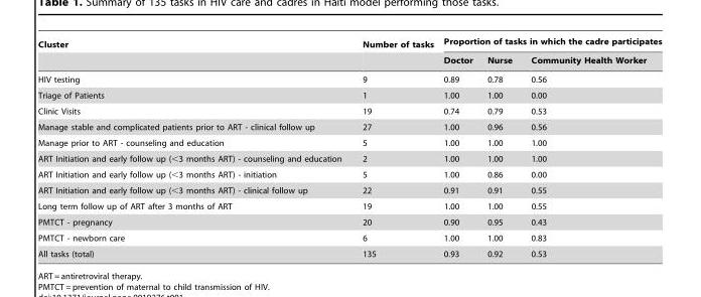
<table><thead><tr><td rowspan="2">Cluster</td><td rowspan="2">Number of tasks</td><td colspan="3">Proportion of tasks in which the cadre participates</td></tr><tr><td>Doctor</td><td>Nurse</td><td>Community Health Worker</td></tr></thead><tbody><tr><td>HIV testing</td><td>9</td><td>0.89</td><td>0.78</td><td>0.56</td></tr><tr><td>Triage of Patients</td><td>1</td><td>1.00</td><td>1.00</td><td>0.00</td></tr><tr><td>Clinic Visits</td><td>19</td><td>0.74</td><td>0.79</td><td>0.53</td></tr><tr><td>Manage stable and complicated patients prior to ART - clinical follow up</td><td>27</td><td>1.00</td><td>0.96</td><td>0.56</td></tr><tr><td>Manage prior to ART - counseling and education</td><td>5</td><td>1.00</td><td>1.00</td><td>1.00</td></tr><tr><td>ART Initiation and early follow up (&lt;3 months ART) - counseling and education</td><td>2</td><td>1.00</td><td>1.00</td><td>1.00</td></tr><tr><td>ART Initiation and early follow up (&lt;3 months ART) - initiation</td><td>5</td><td>1.00</td><td>0.86</td><td>0.00</td></tr><tr><td>ART Initiation and early follow up (&lt;3 months ART) - clinical follow up</td><td>22</td><td>0.91</td><td>0.91</td><td>0.55</td></tr><tr><td>Long term follow up of ART after 3 months of ART</td><td>19</td><td>1.00</td><td>1.00</td><td>0.55</td></tr><tr><td>PMTCT - pregnancy</td><td>20</td><td>0.90</td><td>0.95</td><td>0.43</td></tr><tr><td>PMTCT - newborn care</td><td>6</td><td>1.00</td><td>1.00</td><td>0.83</td></tr><tr><td>All tasks (total)</td><td>135</td><td>0.93</td><td>0.92</td><td>0.53</td></tr></tbody></table>